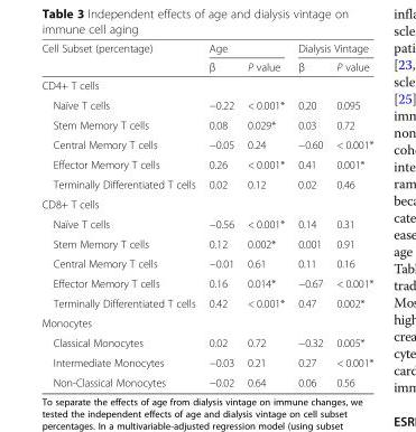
<table><thead><tr><td rowspan="2">Cell Subset (percentage)</td><td colspan="2">Age</td><td colspan="2">Dialysis Vintage</td></tr><tr><td>β</td><td>P value</td><td>β</td><td>P value</td></tr></thead><tbody><tr><td colspan="5">CD4+ T cells</td></tr><tr><td>Naïve T cells</td><td>−0.22</td><td>&lt; 0.001*</td><td>0.20</td><td>0.095</td></tr><tr><td>Stem Memory T cells</td><td>0.08</td><td>0.029*</td><td>0.03</td><td>0.72</td></tr><tr><td>Central Memory T cells</td><td>−0.05</td><td>0.24</td><td>−0.60</td><td>&lt; 0.001*</td></tr><tr><td>Effector Memory T cells</td><td>0.26</td><td>&lt; 0.001*</td><td>0.41</td><td>0.001*</td></tr><tr><td>Terminally Differentiated T cells</td><td>0.02</td><td>0.12</td><td>0.02</td><td>0.46</td></tr><tr><td colspan="5">CD8+ T cells</td></tr><tr><td>Naïve T cells</td><td>−0.56</td><td>&lt; 0.001*</td><td>0.14</td><td>0.31</td></tr><tr><td>Stem Memory T cells</td><td>0.12</td><td>0.002*</td><td>0.001</td><td>0.91</td></tr><tr><td>Central Memory T cells</td><td>−0.01</td><td>0.61</td><td>0.11</td><td>0.16</td></tr><tr><td>Effector Memory T cells</td><td>0.16</td><td>0.014*</td><td>−0.67</td><td>&lt; 0.001*</td></tr><tr><td>Terminally Differentiated T cells</td><td>0.42</td><td>&lt; 0.001*</td><td>0.47</td><td>0.002*</td></tr><tr><td colspan="5">Monocytes</td></tr><tr><td>Classical Monocytes</td><td>0.02</td><td>0.72</td><td>−0.32</td><td>0.005*</td></tr><tr><td>Intermediate Monocytes</td><td>−0.03</td><td>0.21</td><td>0.27</td><td>&lt; 0.001*</td></tr><tr><td>Non-Classical Monocytes</td><td>−0.02</td><td>0.64</td><td>0.06</td><td>0.56</td></tr></tbody></table>